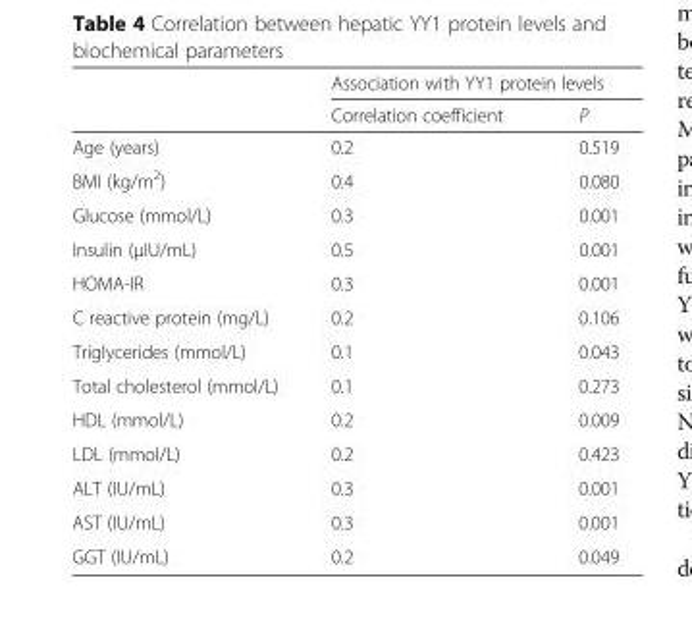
<table><thead><tr><td rowspan="2"></td><td colspan="2">Association with YY1 protein levels</td></tr><tr><td>Correlation coefficient</td><td>P</td></tr></thead><tbody><tr><td>Age (years)</td><td>0.2</td><td>0.519</td></tr><tr><td>BMI (kg/m<sup>2</sup>)</td><td>0.4</td><td>0.080</td></tr><tr><td>Glucose (mmol/L)</td><td>0.3</td><td>0.001</td></tr><tr><td>Insulin (μIU/mL)</td><td>0.5</td><td>0.001</td></tr><tr><td>HOMA-IR</td><td>0.3</td><td>0.001</td></tr><tr><td>C reactive protein (mg/L)</td><td>0.2</td><td>0.106</td></tr><tr><td>Triglycerides (mmol/L)</td><td>0.1</td><td>0.043</td></tr><tr><td>Total cholesterol (mmol/L)</td><td>0.1</td><td>0.273</td></tr><tr><td>HDL (mmol/L)</td><td>0.2</td><td>0.009</td></tr><tr><td>LDL (mmol/L)</td><td>0.2</td><td>0.423</td></tr><tr><td>ALT (IU/mL)</td><td>0.3</td><td>0.001</td></tr><tr><td>AST (IU/mL)</td><td>0.3</td><td>0.001</td></tr><tr><td>GGT (IU/mL)</td><td>0.2</td><td>0.049</td></tr></tbody></table>